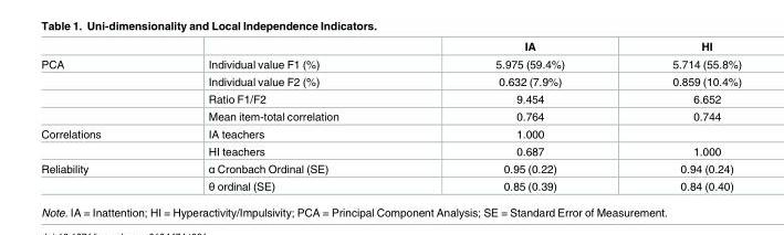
<table><thead><tr><td></td><td></td><td>IA</td><td>HI</td></tr></thead><tbody><tr><td rowspan="4">PCA</td><td>Individual value F1 (%)</td><td>5.975 (59.4%)</td><td>5.714 (55.8%)</td></tr><tr><td>Individual value F2 (%)</td><td>0.632 (7.9%)</td><td>0.859 (10.4%)</td></tr><tr><td>Ratio F1/F2</td><td>9.454</td><td>6.652</td></tr><tr><td>Mean item-total correlation</td><td>0.764</td><td>0.744</td></tr><tr><td rowspan="2">Correlations</td><td>IA teachers</td><td>1.000</td><td></td></tr><tr><td>HI teachers</td><td>0.687</td><td>1.000</td></tr><tr><td rowspan="2">Reliability</td><td>α Cronbach Ordinal (SE)</td><td>0.95 (0.22)</td><td>0.94 (0.24)</td></tr><tr><td>θ ordinal (SE)</td><td>0.85 (0.39)</td><td>0.84 (0.40)</td></tr></tbody></table>